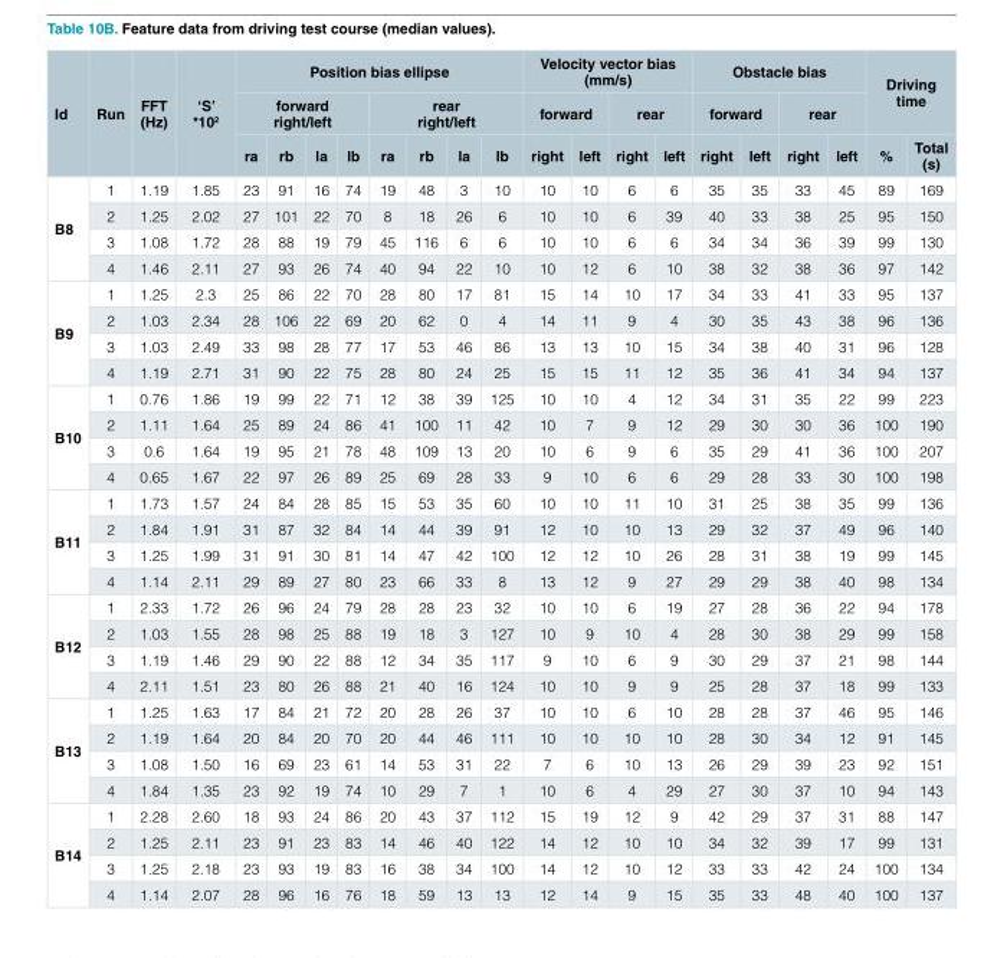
<table><thead><tr><td rowspan="3">Id</td><td rowspan="3">Run</td><td rowspan="3">FFT (Hz)</td><td rowspan="3">‘S’ *10<sup>2</sup></td><td colspan="8">Position bias ellipse</td><td colspan="4">Velocity vector bias (mm/s)</td><td colspan="4">Obstacle bias</td><td rowspan="2" colspan="2">Driving time</td></tr><tr><td colspan="4">forward right/left</td><td colspan="4">rear right/left</td><td colspan="2">forward</td><td colspan="2">rear</td><td colspan="2">forward</td><td colspan="2">rear</td></tr><tr><td>ra</td><td>rb</td><td>la</td><td>lb</td><td>ra</td><td>rb</td><td>la</td><td>lb</td><td>right</td><td>left</td><td>right</td><td>left</td><td>right</td><td>left</td><td>right</td><td>left</td><td>%</td><td>Total (s)</td></tr></thead><tbody><tr><td rowspan="4">B8</td><td>1</td><td>1.19</td><td>1.85</td><td>23</td><td>91</td><td>16</td><td>74</td><td>19</td><td>48</td><td>3</td><td>10</td><td>10</td><td>10</td><td>6</td><td>6</td><td>35</td><td>35</td><td>33</td><td>45</td><td>89</td><td>169</td></tr><tr><td>2</td><td>1.25</td><td>2.02</td><td>27</td><td>101</td><td>22</td><td>70</td><td>8</td><td>18</td><td>26</td><td>6</td><td>10</td><td>10</td><td>6</td><td>39</td><td>40</td><td>33</td><td>38</td><td>25</td><td>95</td><td>150</td></tr><tr><td>3</td><td>1.08</td><td>1.72</td><td>28</td><td>88</td><td>19</td><td>79</td><td>45</td><td>116</td><td>6</td><td>6</td><td>10</td><td>10</td><td>6</td><td>6</td><td>34</td><td>34</td><td>36</td><td>39</td><td>99</td><td>130</td></tr><tr><td>4</td><td>1.46</td><td>2.11</td><td>27</td><td>93</td><td>26</td><td>74</td><td>40</td><td>94</td><td>22</td><td>10</td><td>10</td><td>12</td><td>6</td><td>10</td><td>38</td><td>32</td><td>38</td><td>36</td><td>97</td><td>142</td></tr><tr><td rowspan="4">B9</td><td>1</td><td>1.25</td><td>2.3</td><td>25</td><td>86</td><td>22</td><td>70</td><td>28</td><td>80</td><td>17</td><td>81</td><td>15</td><td>14</td><td>10</td><td>17</td><td>34</td><td>33</td><td>41</td><td>33</td><td>95</td><td>137</td></tr><tr><td>2</td><td>1.03</td><td>2.34</td><td>28</td><td>106</td><td>22</td><td>69</td><td>20</td><td>62</td><td>0</td><td>4</td><td>14</td><td>11</td><td>9</td><td>4</td><td>30</td><td>35</td><td>43</td><td>38</td><td>96</td><td>136</td></tr><tr><td>3</td><td>1.03</td><td>2.49</td><td>33</td><td>98</td><td>28</td><td>77</td><td>17</td><td>53</td><td>46</td><td>86</td><td>13</td><td>13</td><td>10</td><td>15</td><td>34</td><td>38</td><td>40</td><td>31</td><td>96</td><td>128</td></tr><tr><td>4</td><td>1.19</td><td>2.71</td><td>31</td><td>90</td><td>22</td><td>75</td><td>28</td><td>80</td><td>24</td><td>25</td><td>15</td><td>15</td><td>11</td><td>12</td><td>35</td><td>36</td><td>41</td><td>34</td><td>94</td><td>137</td></tr><tr><td rowspan="4">B10</td><td>1</td><td>0.76</td><td>1.86</td><td>19</td><td>99</td><td>22</td><td>71</td><td>12</td><td>38</td><td>39</td><td>125</td><td>10</td><td>10</td><td>4</td><td>12</td><td>34</td><td>31</td><td>35</td><td>22</td><td>99</td><td>223</td></tr><tr><td>2</td><td>1.11</td><td>1.64</td><td>25</td><td>89</td><td>24</td><td>86</td><td>41</td><td>100</td><td>11</td><td>42</td><td>10</td><td>7</td><td>9</td><td>12</td><td>29</td><td>30</td><td>30</td><td>36</td><td>100</td><td>190</td></tr><tr><td>3</td><td>0.6</td><td>1.64</td><td>19</td><td>95</td><td>21</td><td>78</td><td>48</td><td>109</td><td>13</td><td>20</td><td>10</td><td>6</td><td>9</td><td>6</td><td>35</td><td>29</td><td>41</td><td>36</td><td>100</td><td>207</td></tr><tr><td>4</td><td>0.65</td><td>1.67</td><td>22</td><td>97</td><td>26</td><td>89</td><td>25</td><td>69</td><td>28</td><td>33</td><td>9</td><td>10</td><td>6</td><td>6</td><td>29</td><td>28</td><td>33</td><td>30</td><td>100</td><td>198</td></tr><tr><td rowspan="4">B11</td><td>1</td><td>1.73</td><td>1.57</td><td>24</td><td>84</td><td>28</td><td>85</td><td>15</td><td>53</td><td>35</td><td>60</td><td>10</td><td>10</td><td>11</td><td>10</td><td>31</td><td>25</td><td>38</td><td>35</td><td>99</td><td>136</td></tr><tr><td>2</td><td>1.84</td><td>1.91</td><td>31</td><td>87</td><td>32</td><td>84</td><td>14</td><td>44</td><td>39</td><td>91</td><td>12</td><td>10</td><td>10</td><td>13</td><td>29</td><td>32</td><td>37</td><td>49</td><td>96</td><td>140</td></tr><tr><td>3</td><td>1.25</td><td>1.99</td><td>31</td><td>91</td><td>30</td><td>81</td><td>14</td><td>47</td><td>42</td><td>100</td><td>12</td><td>12</td><td>10</td><td>26</td><td>28</td><td>31</td><td>38</td><td>19</td><td>99</td><td>145</td></tr><tr><td>4</td><td>1.14</td><td>2.11</td><td>29</td><td>89</td><td>27</td><td>80</td><td>23</td><td>66</td><td>33</td><td>8</td><td>13</td><td>12</td><td>9</td><td>27</td><td>29</td><td>29</td><td>38</td><td>40</td><td>98</td><td>134</td></tr><tr><td rowspan="4">B12</td><td>1</td><td>2.33</td><td>1.72</td><td>26</td><td>96</td><td>24</td><td>79</td><td>28</td><td>28</td><td>23</td><td>32</td><td>10</td><td>10</td><td>6</td><td>19</td><td>27</td><td>28</td><td>36</td><td>22</td><td>94</td><td>178</td></tr><tr><td>2</td><td>1.03</td><td>1.55</td><td>28</td><td>98</td><td>25</td><td>88</td><td>19</td><td>18</td><td>3</td><td>127</td><td>10</td><td>9</td><td>10</td><td>4</td><td>28</td><td>30</td><td>38</td><td>29</td><td>99</td><td>158</td></tr><tr><td>3</td><td>1.19</td><td>1.46</td><td>29</td><td>90</td><td>22</td><td>88</td><td>12</td><td>34</td><td>35</td><td>117</td><td>9</td><td>10</td><td>6</td><td>9</td><td>30</td><td>29</td><td>37</td><td>21</td><td>98</td><td>144</td></tr><tr><td>4</td><td>2.11</td><td>1.51</td><td>23</td><td>80</td><td>26</td><td>88</td><td>21</td><td>40</td><td>16</td><td>124</td><td>10</td><td>10</td><td>9</td><td>9</td><td>25</td><td>28</td><td>37</td><td>18</td><td>99</td><td>133</td></tr><tr><td rowspan="4">B13</td><td>1</td><td>1.25</td><td>1.63</td><td>17</td><td>84</td><td>21</td><td>72</td><td>20</td><td>28</td><td>26</td><td>37</td><td>10</td><td>10</td><td>6</td><td>10</td><td>28</td><td>28</td><td>37</td><td>46</td><td>95</td><td>146</td></tr><tr><td>2</td><td>1.19</td><td>1.64</td><td>20</td><td>84</td><td>20</td><td>70</td><td>20</td><td>44</td><td>46</td><td>111</td><td>10</td><td>10</td><td>10</td><td>10</td><td>28</td><td>30</td><td>34</td><td>12</td><td>91</td><td>145</td></tr><tr><td>3</td><td>1.08</td><td>1.50</td><td>16</td><td>69</td><td>23</td><td>61</td><td>14</td><td>53</td><td>31</td><td>22</td><td>7</td><td>6</td><td>10</td><td>13</td><td>26</td><td>29</td><td>39</td><td>23</td><td>92</td><td>151</td></tr><tr><td>4</td><td>1.84</td><td>1.35</td><td>23</td><td>92</td><td>19</td><td>74</td><td>10</td><td>29</td><td>7</td><td>1</td><td>10</td><td>6</td><td>4</td><td>29</td><td>27</td><td>30</td><td>37</td><td>10</td><td>94</td><td>143</td></tr><tr><td rowspan="4">B14</td><td>1</td><td>2.28</td><td>2.60</td><td>18</td><td>93</td><td>24</td><td>86</td><td>20</td><td>43</td><td>37</td><td>112</td><td>15</td><td>19</td><td>12</td><td>9</td><td>42</td><td>29</td><td>37</td><td>31</td><td>88</td><td>147</td></tr><tr><td>2</td><td>1.25</td><td>2.11</td><td>23</td><td>91</td><td>23</td><td>83</td><td>14</td><td>46</td><td>40</td><td>122</td><td>14</td><td>12</td><td>10</td><td>10</td><td>34</td><td>32</td><td>39</td><td>17</td><td>99</td><td>131</td></tr><tr><td>3</td><td>1.25</td><td>2.18</td><td>23</td><td>93</td><td>19</td><td>83</td><td>16</td><td>38</td><td>34</td><td>100</td><td>14</td><td>12</td><td>10</td><td>12</td><td>33</td><td>33</td><td>42</td><td>24</td><td>100</td><td>134</td></tr><tr><td>4</td><td>1.14</td><td>2.07</td><td>28</td><td>96</td><td>16</td><td>76</td><td>18</td><td>59</td><td>13</td><td>13</td><td>12</td><td>14</td><td>9</td><td>15</td><td>35</td><td>33</td><td>48</td><td>40</td><td>100</td><td>137</td></tr></tbody></table>